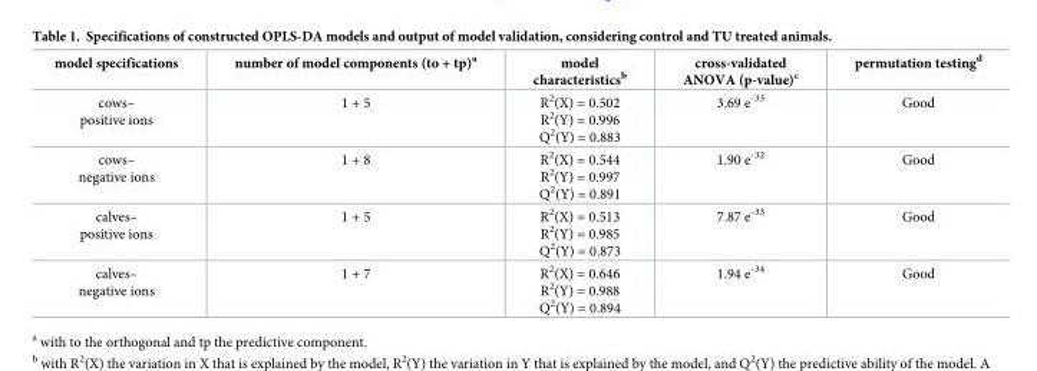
<table><thead><tr><td>model specifications</td><td>number of model components (to + tp)<sup>a</sup></td><td>model characteristics<sup>b</sup></td><td>cross-validated ANOVA (p-value)<sup>c</sup></td><td>permutation testing<sup>d</sup></td></tr></thead><tbody><tr><td>cows– positive ions</td><td>1 + 5</td><td>R<sup>2</sup>(X) = 0.502 R<sup>2</sup>(Y) = 0.996 Q<sup>2</sup>(Y) = 0.883</td><td>3.69 e<sup>-33</sup></td><td>Good</td></tr><tr><td>cows– negative ions</td><td>1 + 8</td><td>R<sup>2</sup>(X) = 0.544 R<sup>2</sup>(Y) = 0.997 Q<sup>2</sup>(Y) = 0.891</td><td>1.90 e<sup>-32</sup></td><td>Good</td></tr><tr><td>calves– positive ions</td><td>1 + 5</td><td>R<sup>2</sup>(X) = 0.513 R<sup>2</sup>(Y) = 0.985 Q<sup>2</sup>(Y) = 0.873</td><td>7.87 e<sup>-33</sup></td><td>Good</td></tr><tr><td>calves– negative ions</td><td>1 + 7</td><td>R<sup>2</sup>(X) = 0.646 R<sup>2</sup>(Y) = 0.988 Q<sup>2</sup>(Y) = 0.894</td><td>1.94 e<sup>-34</sup></td><td>Good</td></tr></tbody></table>